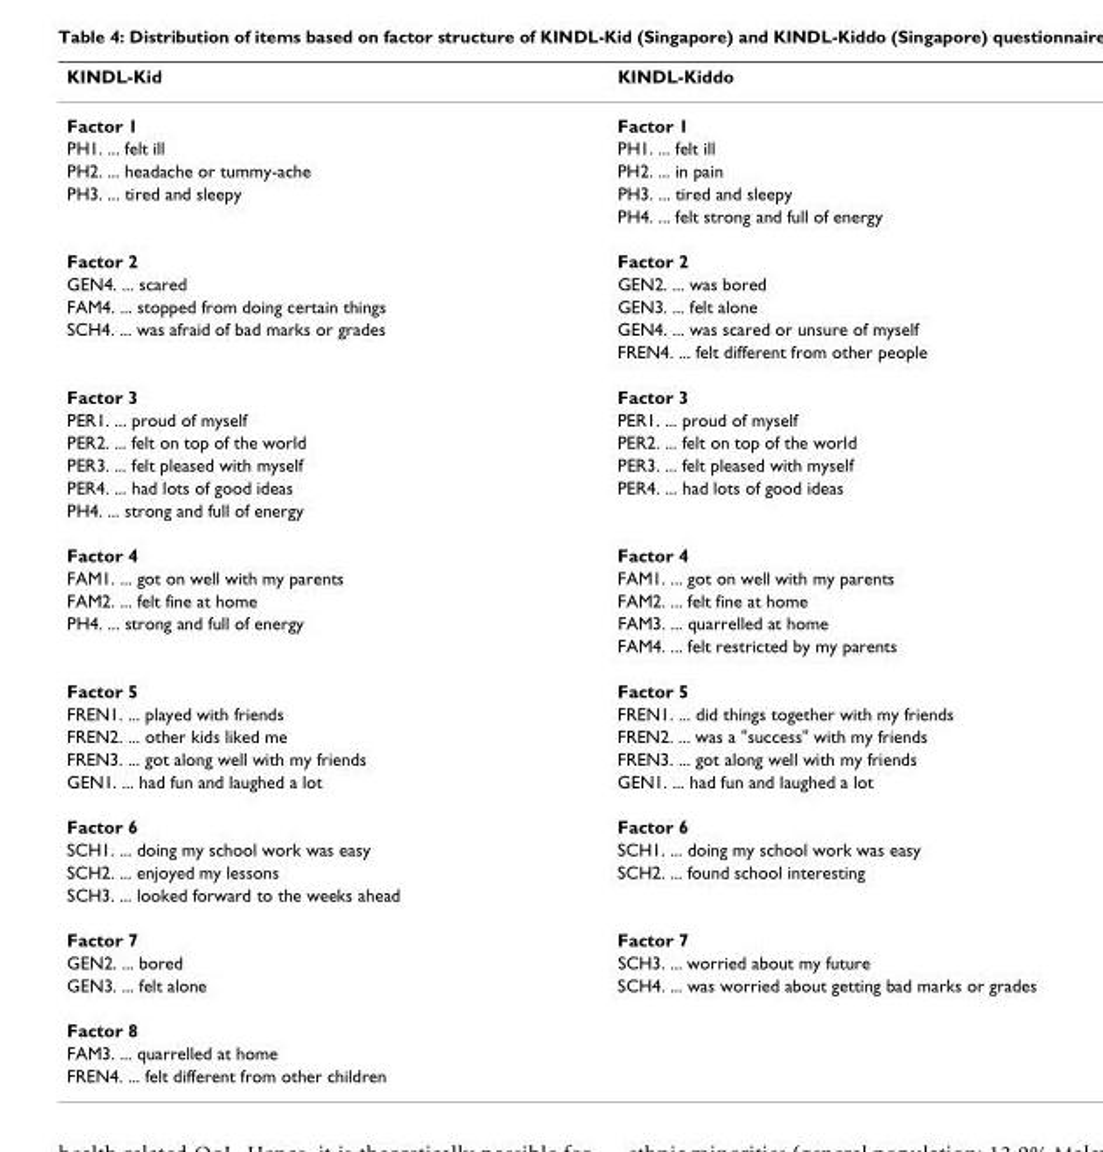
<table><thead><tr><td>KINDL-Kid</td><td>KINDL-Kiddo</td></tr></thead><tbody><tr><td>Factor 1</td><td>Factor 1</td></tr><tr><td>PH1. ... felt ill</td><td>PH1. ... felt ill</td></tr><tr><td>PH2. ... headache or tummy-ache</td><td>PH2. ... in pain</td></tr><tr><td rowspan="2">PH3. ... tired and sleepy</td><td>PH3. ... tired and sleepy</td></tr><tr><td>PH4. ... felt strong and full of energy</td></tr><tr><td>Factor 2</td><td>Factor 2</td></tr><tr><td>GEN4. ... scared</td><td>GEN2. ... was bored</td></tr><tr><td>FAM4. ... stopped from doing certain things</td><td>GEN3. ... felt alone</td></tr><tr><td rowspan="2">SCH4. ... was afraid of bad marks or grades</td><td>GEN4. ... was scared or unsure of myself</td></tr><tr><td>FREN4. ... felt different from other people</td></tr><tr><td>Factor 3</td><td>Factor 3</td></tr><tr><td>PER1. ... proud of myself</td><td>PER1. ... proud of myself</td></tr><tr><td>PER2. ... felt on top of the world</td><td>PER2. ... felt on top of the world</td></tr><tr><td>PER3. ... felt pleased with myself</td><td>PER3. ... felt pleased with myself</td></tr><tr><td>PER4. ... had lots of good ideas</td><td>PER4. ... had lots of good ideas</td></tr><tr><td colspan="2">PH4. ... strong and full of energy</td></tr><tr><td>Factor 4</td><td>Factor 4</td></tr><tr><td>FAM1. ... got on well with my parents</td><td>FAM1. ... got on well with my parents</td></tr><tr><td>FAM2. ... felt fine at home</td><td>FAM2. ... felt fine at home</td></tr><tr><td rowspan="2">PH4. ... strong and full of energy</td><td>FAM3. ... quarrelled at home</td></tr><tr><td>FAM4. ... felt restricted by my parents</td></tr><tr><td>Factor 5</td><td>Factor 5</td></tr><tr><td>FREN1. ... played with friends</td><td>FREN1. ... did things together with my friends</td></tr><tr><td>FREN2. ... other kids liked me</td><td>FREN2. ... was a &quot;success&quot; with my friends</td></tr><tr><td>FREN3. ... got along well with my friends</td><td>FREN3. ... got along well with my friends</td></tr><tr><td>GEN1. ... had fun and laughed a lot</td><td>GEN1. ... had fun and laughed a lot</td></tr><tr><td>Factor 6</td><td>Factor 6</td></tr><tr><td>SCH1. ... doing my school work was easy</td><td>SCH1. ... doing my school work was easy</td></tr><tr><td>SCH2. ... enjoyed my lessons</td><td>SCH2. ... found school interesting</td></tr><tr><td colspan="2">SCH3. ... looked forward to the weeks ahead</td></tr><tr><td>Factor 7</td><td>Factor 7</td></tr><tr><td>GEN2. ... bored</td><td>SCH3. ... worried about my future</td></tr><tr><td>GEN3. ... felt alone</td><td>SCH4. ... was worried about getting bad marks or grades</td></tr><tr><td colspan="2">Factor 8</td></tr><tr><td colspan="2">FAM3. ... quarrelled at home</td></tr><tr><td>FREN4. ... felt different from other children</td><td></td></tr></tbody></table>